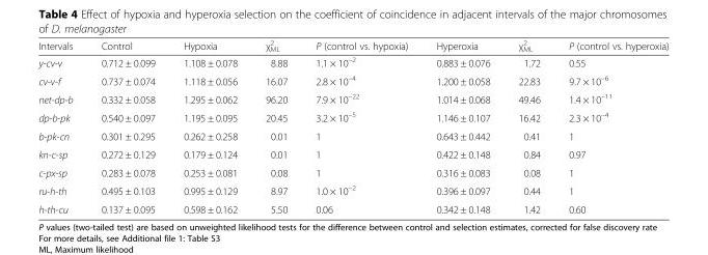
<table><thead><tr><td>Intervals</td><td>Control</td><td>Hypoxia</td><td>χ<sup>2</sup> <sub>ML</sub></td><td>P (control vs. hypoxia)</td><td>Hyperoxia</td><td>χ<sup>2</sup> <sub>ML</sub></td><td>P (control vs. hyperoxia)</td></tr></thead><tbody><tr><td>y-cv-v</td><td>0.712 ± 0.099</td><td>1.108 ± 0.078</td><td>8.88</td><td>1.1 × 10<sup>–2</sup></td><td>0.883 ± 0.076</td><td>1.72</td><td>0.55</td></tr><tr><td>cv-v-f</td><td>0.737 ± 0.074</td><td>1.118 ± 0.056</td><td>16.07</td><td>2.8 × 10<sup>–4</sup></td><td>1.200 ± 0.058</td><td>22.83</td><td>9.7 × 10<sup>–6</sup></td></tr><tr><td>net-dp-b</td><td>0.332 ± 0.058</td><td>1.295 ± 0.062</td><td>96.20</td><td>7.9 × 10<sup>–22</sup></td><td>1.014 ± 0.068</td><td>49.46</td><td>1.4 × 10<sup>–11</sup></td></tr><tr><td>dp-b-pk</td><td>0.540 ± 0.097</td><td>1.195 ± 0.095</td><td>20.45</td><td>3.2 × 10<sup>–5</sup></td><td>1.146 ± 0.107</td><td>16.42</td><td>2.3 × 10<sup>–4</sup></td></tr><tr><td>b-pk-cn</td><td>0.301 ± 0.295</td><td>0.262 ± 0.258</td><td>0.01</td><td>1</td><td>0.643 ± 0.442</td><td>0.41</td><td>1</td></tr><tr><td>kn-c-sp</td><td>0.272 ± 0.129</td><td>0.179 ± 0.124</td><td>0.01</td><td>1</td><td>0.422 ± 0.148</td><td>0.84</td><td>0.97</td></tr><tr><td>c-px-sp</td><td>0.283 ± 0.078</td><td>0.253 ± 0.081</td><td>0.08</td><td>1</td><td>0.316 ± 0.083</td><td>0.08</td><td>1</td></tr><tr><td>ru-h-th</td><td>0.495 ± 0.103</td><td>0.995 ± 0.129</td><td>8.97</td><td>1.0 × 10<sup>–2</sup></td><td>0.396 ± 0.097</td><td>0.44</td><td>1</td></tr><tr><td>h-th-cu</td><td>0.137 ± 0.095</td><td>0.598 ± 0.162</td><td>5.50</td><td>0.06</td><td>0.342 ± 0.148</td><td>1.42</td><td>0.60</td></tr></tbody></table>